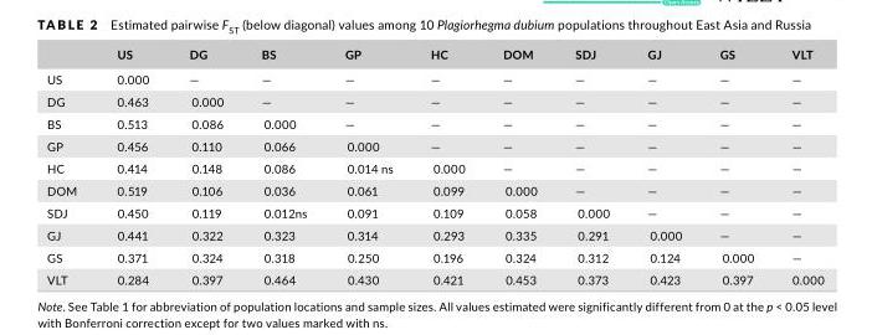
<table><thead><tr><td></td><td>US</td><td>DG</td><td>BS</td><td>GP</td><td>HC</td><td>DOM</td><td>SDJ</td><td>GJ</td><td>GS</td><td>VLT</td></tr></thead><tbody><tr><td>US</td><td>0.000</td><td>—</td><td>—</td><td>—</td><td>—</td><td>—</td><td>—</td><td>—</td><td>—</td><td>—</td></tr><tr><td>DG</td><td>0.463</td><td>0.000</td><td>—</td><td>—</td><td>—</td><td>—</td><td>—</td><td>—</td><td>—</td><td>—</td></tr><tr><td>BS</td><td>0.513</td><td>0.086</td><td>0.000</td><td>—</td><td>—</td><td>—</td><td>—</td><td>—</td><td>—</td><td>—</td></tr><tr><td>GP</td><td>0.456</td><td>0.110</td><td>0.066</td><td>0.000</td><td>—</td><td>—</td><td>—</td><td>—</td><td>—</td><td>—</td></tr><tr><td>HC</td><td>0.414</td><td>0.148</td><td>0.086</td><td>0.014 ns</td><td>0.000</td><td>—</td><td>—</td><td>—</td><td>—</td><td>—</td></tr><tr><td>DOM</td><td>0.519</td><td>0.106</td><td>0.036</td><td>0.061</td><td>0.099</td><td>0.000</td><td>—</td><td>—</td><td>—</td><td>—</td></tr><tr><td>SDJ</td><td>0.450</td><td>0.119</td><td>0.012ns</td><td>0.091</td><td>0.109</td><td>0.058</td><td>0.000</td><td>—</td><td>—</td><td>—</td></tr><tr><td>GJ</td><td>0.441</td><td>0.322</td><td>0.323</td><td>0.314</td><td>0.293</td><td>0.335</td><td>0.291</td><td>0.000</td><td>—</td><td>—</td></tr><tr><td>GS</td><td>0.371</td><td>0.324</td><td>0.318</td><td>0.250</td><td>0.196</td><td>0.324</td><td>0.312</td><td>0.124</td><td>0.000</td><td>—</td></tr><tr><td>VLT</td><td>0.284</td><td>0.397</td><td>0.464</td><td>0.430</td><td>0.421</td><td>0.453</td><td>0.373</td><td>0.423</td><td>0.397</td><td>0.000</td></tr></tbody></table>